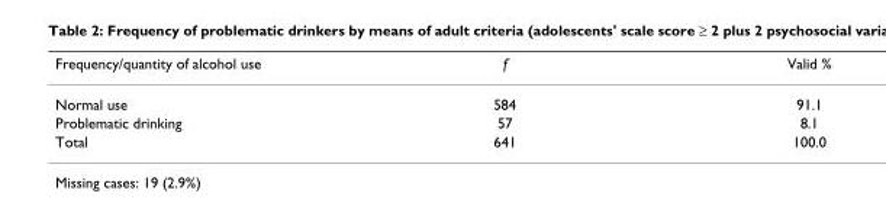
<table><thead><tr><td>Frequency/quantity of alcohol use</td><td>f</td><td>Valid %</td></tr></thead><tbody><tr><td>Normal use</td><td>584</td><td>91.1</td></tr><tr><td>Problematic drinking</td><td>57</td><td>8.1</td></tr><tr><td>Total</td><td>641</td><td>100.0</td></tr></tbody></table>